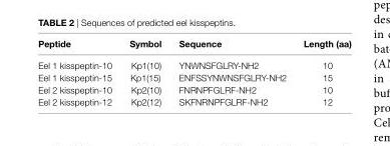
<table><thead><tr><td>Peptide</td><td>symbol</td><td>sequence</td><td>length (aa)</td></tr></thead><tbody><tr><td>Eel 1 kisspeptin-10</td><td>Kp1(10)</td><td>YNWNSFGLRY-NH2</td><td>10</td></tr><tr><td>Eel 1 kisspeptin-15</td><td>Kp1(15)</td><td>ENFSSYNWNSFGLRY-NH2</td><td>15</td></tr><tr><td>Eel 2 kisspeptin-10</td><td>Kp2(10)</td><td>FNRNPFGLRF-NH2</td><td>10</td></tr><tr><td>Eel 2 kisspeptin-12</td><td>Kp2(12)</td><td>SKFNRNPFGLRF-NH2</td><td>12</td></tr></tbody></table>